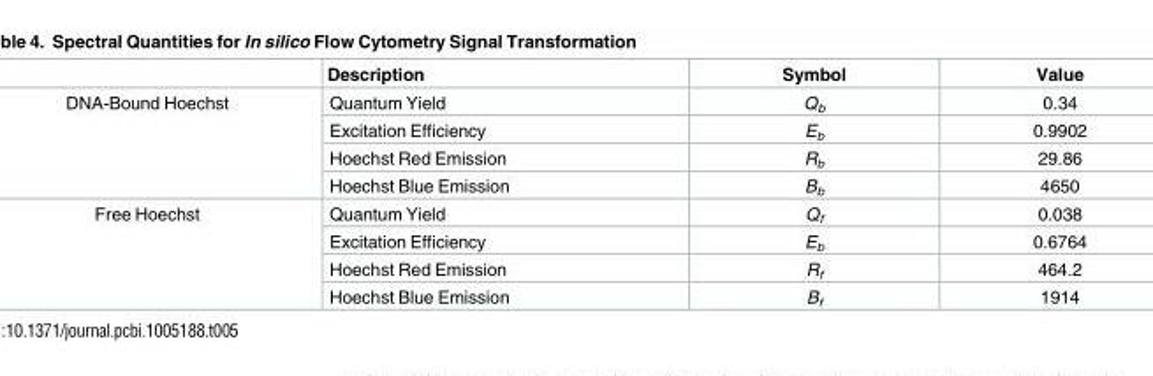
<table><thead><tr><td></td><td>Description</td><td>Symbol</td><td>Value</td></tr></thead><tbody><tr><td rowspan="4">DNA-Bound Hoechst</td><td>Quantum Yield</td><td>Q<sub>b</sub></td><td>0.34</td></tr><tr><td>Excitation Efficiency</td><td>E<sub>b</sub></td><td>0.9902</td></tr><tr><td>Hoechst Red Emission</td><td>R<sub>b</sub></td><td>29.86</td></tr><tr><td>Hoechst Blue Emission</td><td>B<sub>b</sub></td><td>4650</td></tr><tr><td rowspan="4">Free Hoechst</td><td>Quantum Yield</td><td>Q<sub>f</sub></td><td>0.038</td></tr><tr><td>Excitation Efficiency</td><td>E<sub>b</sub></td><td>0.6764</td></tr><tr><td>Hoechst Red Emission</td><td>R<sub>f</sub></td><td>464.2</td></tr><tr><td>Hoechst Blue Emission</td><td>B<sub>f</sub></td><td>1914</td></tr></tbody></table>